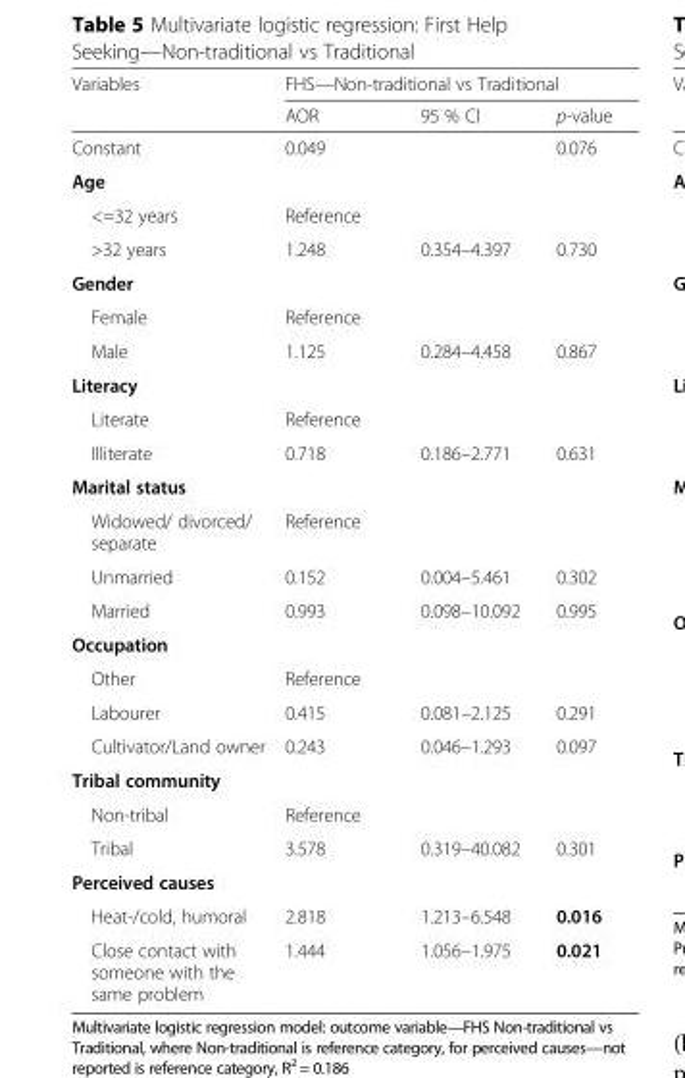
<table><thead><tr><td rowspan="2">Variables</td><td colspan="3">FHS—Non-traditional vs Traditional</td></tr><tr><td>AOR</td><td>95 % CI</td><td>p-value</td></tr></thead><tbody><tr><td>Constant</td><td>0.049</td><td></td><td>0.076</td></tr><tr><td colspan="4">Age</td></tr><tr><td>&lt;=32 years</td><td>Reference</td><td></td><td></td></tr><tr><td>&gt;32 years</td><td>1.248</td><td>0.354–4.397</td><td>0.730</td></tr><tr><td colspan="4">Gender</td></tr><tr><td>Female</td><td>Reference</td><td></td><td></td></tr><tr><td>Male</td><td>1.125</td><td>0.284–4.458</td><td>0.867</td></tr><tr><td colspan="4">Literacy</td></tr><tr><td>Literate</td><td>Reference</td><td></td><td></td></tr><tr><td>Illiterate</td><td>0.718</td><td>0.186–2.771</td><td>0.631</td></tr><tr><td colspan="4">Marital status</td></tr><tr><td>Widowed/ divorced/ separate</td><td>Reference</td><td></td><td></td></tr><tr><td>Unmarried</td><td>0.152</td><td>0.004–5.461</td><td>0.302</td></tr><tr><td>Married</td><td>0.993</td><td>0.098–10.092</td><td>0.995</td></tr><tr><td colspan="4">Occupation</td></tr><tr><td>Other</td><td>Reference</td><td></td><td></td></tr><tr><td>Labourer</td><td>0.415</td><td>0.081–2.125</td><td>0.291</td></tr><tr><td>Cultivator/Land owner</td><td>0.243</td><td>0.046–1.293</td><td>0.097</td></tr><tr><td colspan="4">Tribal community</td></tr><tr><td>Non-tribal</td><td>Reference</td><td></td><td></td></tr><tr><td>Tribal</td><td>3.578</td><td>0.319–40.082</td><td>0.301</td></tr><tr><td colspan="4">Perceived causes</td></tr><tr><td>Heat-/cold, humoral</td><td>2.818</td><td>1.213–6.548</td><td>0.016</td></tr><tr><td>Close contact with someone with the same problem</td><td>1.444</td><td>1.056–1.975</td><td>0.021</td></tr></tbody></table>